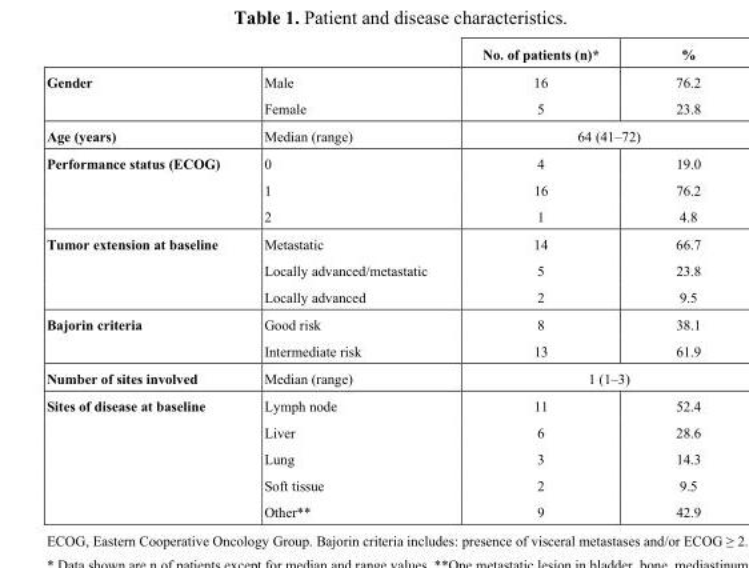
<table><thead><tr><td></td><td></td><td>No. of patients (n)*</td><td>%</td></tr></thead><tbody><tr><td rowspan="2">Gender</td><td>Male</td><td>16</td><td>76.2</td></tr><tr><td>Female</td><td>5</td><td>23.8</td></tr><tr><td>Age (years)</td><td>Median (range)</td><td colspan="2">64 (41–72)</td></tr><tr><td rowspan="3">Performance status (ECOG)</td><td>0</td><td>4</td><td>19.0</td></tr><tr><td>1</td><td>16</td><td>76.2</td></tr><tr><td>2</td><td>1</td><td>4.8</td></tr><tr><td rowspan="3">Tumor extension at baseline</td><td>Metastatic</td><td>14</td><td>66.7</td></tr><tr><td>Locally advanced/metastatic</td><td>5</td><td>23.8</td></tr><tr><td>Locally advanced</td><td>2</td><td>9.5</td></tr><tr><td rowspan="2">Bajorin criteria</td><td>Good risk</td><td>8</td><td>38.1</td></tr><tr><td>Intermediate risk</td><td>13</td><td>61.9</td></tr><tr><td>Number of sites involved</td><td>Median (range)</td><td colspan="2">1 (1–3)</td></tr><tr><td rowspan="5">Sites of disease at baseline</td><td>Lymph node</td><td>11</td><td>52.4</td></tr><tr><td>Liver</td><td>6</td><td>28.6</td></tr><tr><td>Lung</td><td>3</td><td>14.3</td></tr><tr><td>Soft tissue</td><td>2</td><td>9.5</td></tr><tr><td>Other**</td><td>9</td><td>42.9</td></tr></tbody></table>